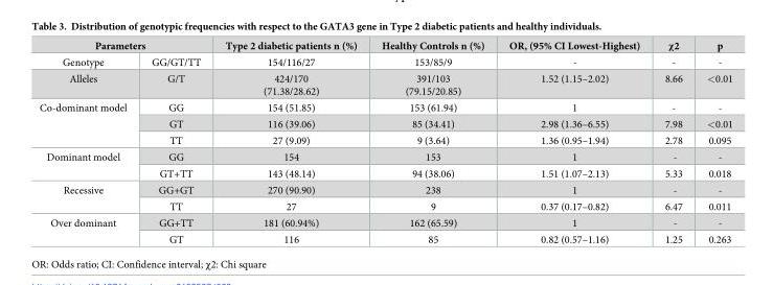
<table><thead><tr><td colspan="2">Parameters</td><td rowspan="2">Type 2 diabetic patients n (%) 154/116/27</td><td rowspan="2">Healthy Controls n (%) 153/85/9</td><td rowspan="2">OR, (95% CI Lowest-Highest) -</td><td rowspan="2">χ2 -</td><td rowspan="2">p -</td></tr><tr><td>Genotype</td><td>GG/GT/TT</td></tr></thead><tbody><tr><td>Alleles</td><td>G/T</td><td>424/170 (71.38/28.62)</td><td>391/103 (79.15/20.85)</td><td>1.52 (1.15–2.02)</td><td>8.66</td><td>&lt;0.01</td></tr><tr><td rowspan="3">Co-dominant model</td><td>GG</td><td>154 (51.85)</td><td>153 (61.94)</td><td>1</td><td>-</td><td>-</td></tr><tr><td>GT</td><td>116 (39.06)</td><td>85 (34.41)</td><td>2.98 (1.36–6.55)</td><td>7.98</td><td>&lt;0.01</td></tr><tr><td>TT</td><td>27 (9.09)</td><td>9 (3.64)</td><td>1.36 (0.95–1.94)</td><td>2.78</td><td>0.095</td></tr><tr><td rowspan="2">Dominant model</td><td>GG</td><td>154</td><td>153</td><td>1</td><td>-</td><td>-</td></tr><tr><td>GT+TT</td><td>143 (48.14)</td><td>94 (38.06)</td><td>1.51 (1.07–2.13)</td><td>5.33</td><td>0.018</td></tr><tr><td rowspan="2">Recessive</td><td>GG+GT</td><td>270 (90.90)</td><td>238</td><td>1</td><td>-</td><td>-</td></tr><tr><td>TT</td><td>27</td><td>9</td><td>0.37 (0.17–0.82)</td><td>6.47</td><td>0.011</td></tr><tr><td rowspan="2">Over dominant</td><td>GG+TT</td><td>181 (60.94%)</td><td>162 (65.59)</td><td>1</td><td>-</td><td>-</td></tr><tr><td>GT</td><td>116</td><td>85</td><td>0.82 (0.57–1.16)</td><td>1.25</td><td>0.263</td></tr></tbody></table>